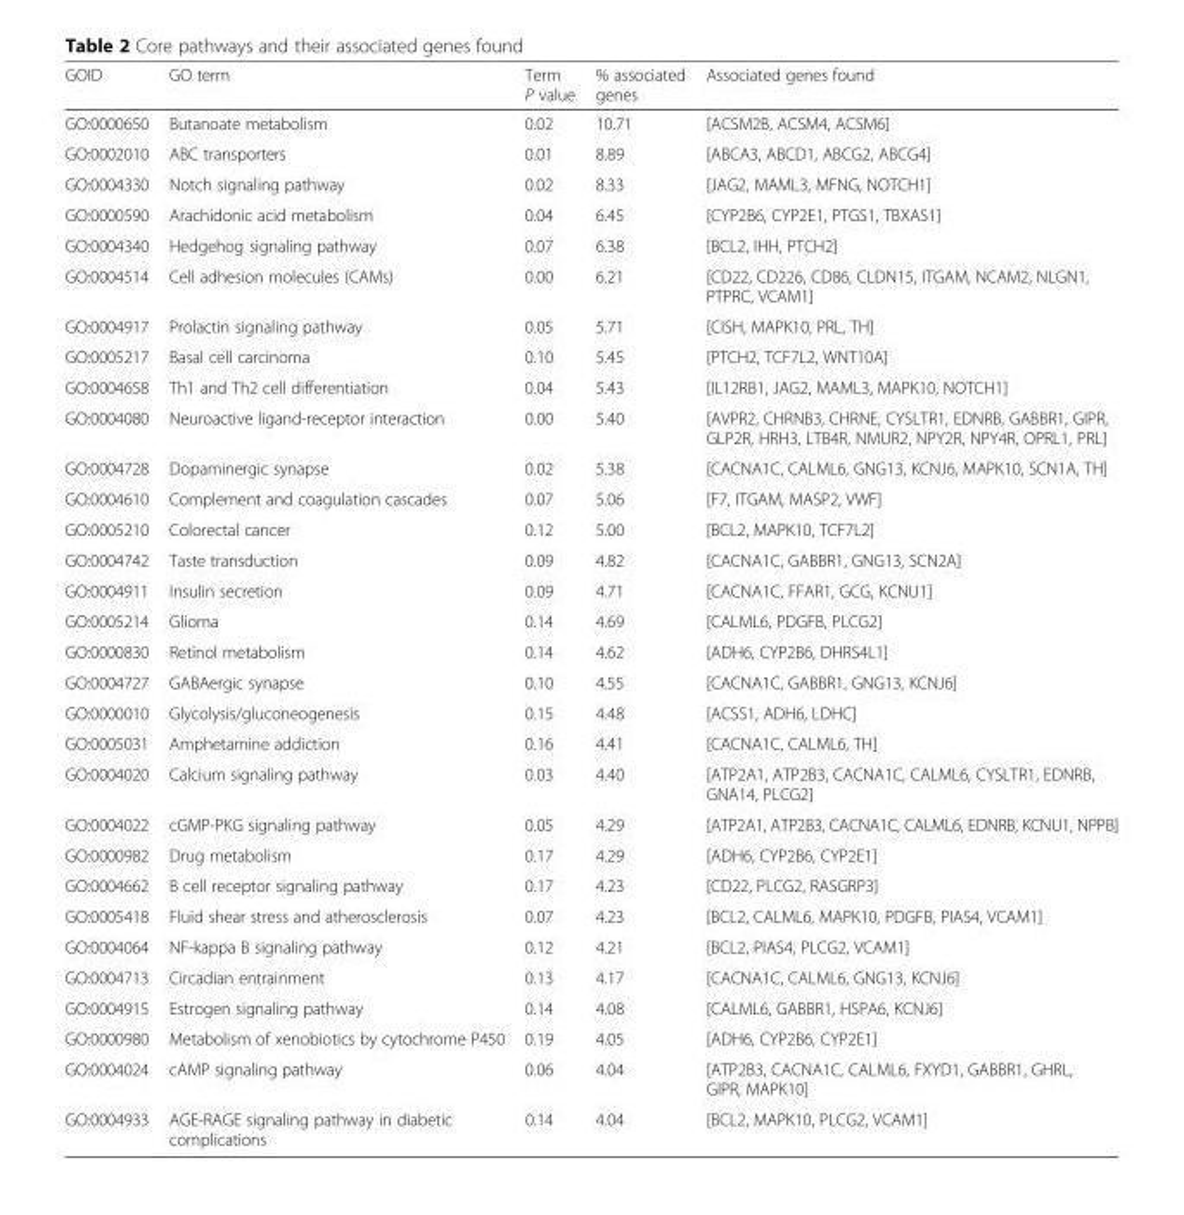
<table><thead><tr><td>GOID</td><td>GO term</td><td>Term P value</td><td>% associated genes</td><td>Associated genes found</td></tr></thead><tbody><tr><td>GO:0000650</td><td>Butanoate metabolism</td><td>0.02</td><td>10.71</td><td>[ACSM2B, ACSM4, ACSM6]</td></tr><tr><td>GO:0002010</td><td>ABC transporters</td><td>0.01</td><td>8.89</td><td>[ABCA3, ABCD1, ABCG2, ABCG4]</td></tr><tr><td>GO:0004330</td><td>Notch signaling pathway</td><td>0.02</td><td>8.33</td><td>[JAG2, MAML3, MFNG, NOTCH1]</td></tr><tr><td>GO:0000590</td><td>Arachidonic acid metabolism</td><td>0.04</td><td>6.45</td><td>[CYP2B6, CYP2E1, PTGS1, TBXAS1]</td></tr><tr><td>GO:0004340</td><td>Hedgehog signaling pathway</td><td>0.07</td><td>6.38</td><td>[BCL2, IHH, PTCH2]</td></tr><tr><td>GO:0004514</td><td>Cell adhesion molecules (CAMs)</td><td>0.00</td><td>6.21</td><td>[CD22, CD226, CD86, CLDN15, ITGAM, NCAM2, NLGN1, PTPRC, VCAM1]</td></tr><tr><td>GO:0004917</td><td>Prolactin signaling pathway</td><td>0.05</td><td>5.71</td><td>[CISH, MAPK10, PRL, TH]</td></tr><tr><td>GO:0005217</td><td>Basal cell carcinoma</td><td>0.10</td><td>5.45</td><td>[PTCH2, TCF7L2, WNT10A]</td></tr><tr><td>GO:0004658</td><td>Th1 and Th2 cell differentiation</td><td>0.04</td><td>5.43</td><td>[IL12RB1, JAG2, MAML3, MAPK10, NOTCH1]</td></tr><tr><td>GO:0004080</td><td>Neuroactive ligand-receptor interaction</td><td>0.00</td><td>5.40</td><td>[AVPR2, CHRNB3, CHRNE, CYSLTR1, EDNRB, GABBR1, GIPR, GLP2R, HRH3, LTB4R, NMUR2, NPY2R, NPY4R, OPRL1, PRL]</td></tr><tr><td>GO:0004728</td><td>Dopaminergic synapse</td><td>0.02</td><td>5.38</td><td>[CACNA1C, CALML6, GNG13, KCNJ6, MAPK10, SCN1A, TH]</td></tr><tr><td>GO:0004610</td><td>Complement and coagulation cascades</td><td>0.07</td><td>5.06</td><td>[F7, ITGAM, MASP2, VWF]</td></tr><tr><td>GO:0005210</td><td>Colorectal cancer</td><td>0.12</td><td>5.00</td><td>[BCL2, MAPK10, TCF7L2]</td></tr><tr><td>GO:0004742</td><td>Taste transduction</td><td>0.09</td><td>4.82</td><td>[CACNA1C, GABBR1, GNG13, SCN2A]</td></tr><tr><td>GO:0004911</td><td>Insulin secretion</td><td>0.09</td><td>4.71</td><td>[CACNA1C, FFAR1, GCG, KCNU1]</td></tr><tr><td>GO:0005214</td><td>Glioma</td><td>0.14</td><td>4.69</td><td>[CALML6, PDGFB, PLCG2]</td></tr><tr><td>GO:0000830</td><td>Retinol metabolism</td><td>0.14</td><td>4.62</td><td>[ADH6, CYP2B6, DHRS4L1]</td></tr><tr><td>GO:0004727</td><td>GABAergic synapse</td><td>0.10</td><td>4.55</td><td>[CACNA1C, GABBR1, GNG13, KCNJ6]</td></tr><tr><td>GO:0000010</td><td>Glycolysis/gluconeogenesis</td><td>0.15</td><td>4.48</td><td>[ACSS1, ADH6, LDHC]</td></tr><tr><td>GO:0005031</td><td>Amphetamine addiction</td><td>0.16</td><td>4.41</td><td>[CACNA1C, CALML6, TH]</td></tr><tr><td>GO:0004020</td><td>Calcium signaling pathway</td><td>0.03</td><td>4.40</td><td>[ATP2A1, ATP2B3, CACNA1C, CALML6, CYSLTR1, EDNRB, GNA14, PLCG2]</td></tr><tr><td>GO:0004022</td><td>cGMP-PKG signaling pathway</td><td>0.05</td><td>4.29</td><td>[ATP2A1, ATP2B3, CACNA1C, CALML6, EDNRB, KCNU1, NPPB]</td></tr><tr><td>GO:0000982</td><td>Drug metabolism</td><td>0.17</td><td>4.29</td><td>[ADH6, CYP2B6, CYP2E1]</td></tr><tr><td>GO:0004662</td><td>B cell receptor signaling pathway</td><td>0.17</td><td>4.23</td><td>[CD22, PLCG2, RASGRP3]</td></tr><tr><td>GO:0005418</td><td>Fluid shear stress and atherosclerosis</td><td>0.07</td><td>4.23</td><td>[BCL2, CALML6, MAPK10, PDGFB, PIAS4, VCAM1]</td></tr><tr><td>GO:0004064</td><td>NF-kappa B signaling pathway</td><td>0.12</td><td>4.21</td><td>[BCL2, PIAS4, PLCG2, VCAM1]</td></tr><tr><td>GO:0004713</td><td>Circadian entrainment</td><td>0.13</td><td>4.17</td><td>[CACNA1C, CALML6, GNG13, KCNJ6]</td></tr><tr><td>GO:0004915</td><td>Estrogen signaling pathway</td><td>0.14</td><td>4.08</td><td>[CALML6, GABBR1, HSPA6, KCNJ6]</td></tr><tr><td>GO:0000980</td><td>Metabolism of xenobiotics by cytochrome P450</td><td>0.19</td><td>4.05</td><td>[ADH6, CYP2B6, CYP2E1]</td></tr><tr><td>GO:0004024</td><td>cAMP signaling pathway</td><td>0.06</td><td>4.04</td><td>[ATP2B3, CACNA1C, CALML6, FXYD1, GABBR1, GHRL, GIPR, MAPK10]</td></tr><tr><td>GO:0004933</td><td>AGE-RAGE signaling pathway in diabetic complications</td><td>0.14</td><td>4.04</td><td>[BCL2, MAPK10, PLCG2, VCAM1]</td></tr></tbody></table>